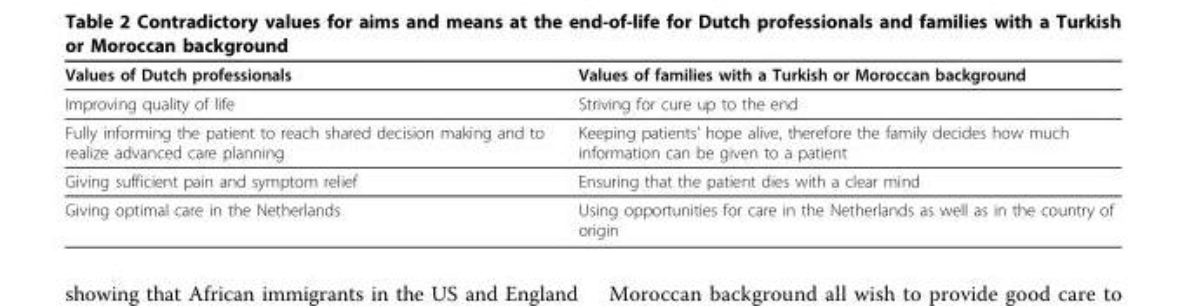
<table><thead><tr><td>Values of Dutch professionals</td><td>Values of families with a Turkish or Moroccan background</td></tr></thead><tbody><tr><td>Improving quality of life</td><td>Striving for cure up to the end</td></tr><tr><td>Fully informing the patient to reach shared decision making and to realize advanced care planning</td><td>Keeping patients’ hope alive, therefore the family decides how much information can be given to a patient</td></tr><tr><td>Giving sufficient pain and symptom relief</td><td>Ensuring that the patient dies with a clear mind</td></tr><tr><td>Giving optimal care in the Netherlands</td><td>Using opportunities for care in the Netherlands as well as in the country of origin</td></tr></tbody></table>